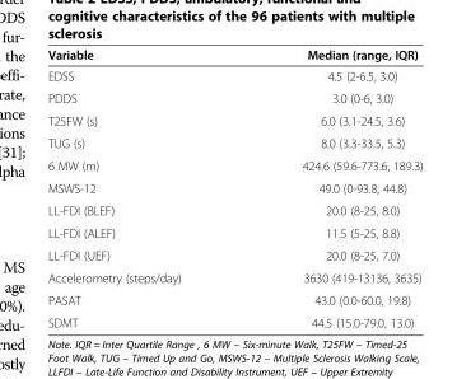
<table><thead><tr><td>Variable</td><td>Median (range, IQR)</td></tr></thead><tbody><tr><td>EDSS</td><td>4.5 (2-6.5, 3.0)</td></tr><tr><td>PDDS</td><td>3.0 (0-6, 3.0)</td></tr><tr><td>T25FW (s)</td><td>6.0 (3.1-24.5, 3.6)</td></tr><tr><td>TUG (s)</td><td>8.0 (3.3-33.5, 5.3)</td></tr><tr><td>6 MW (m)</td><td>424.6 (59.6-773.6, 189.3)</td></tr><tr><td>MSWS-12</td><td>49.0 (0-93.8, 44.8)</td></tr><tr><td>LL-FDI (BLEF)</td><td>20.0 (8-25, 8.0)</td></tr><tr><td>LL-FDI (ALEF)</td><td>11.5 (5-25, 8.8)</td></tr><tr><td>LL-FDI (UEF)</td><td>20.0 (8-25, 7.0)</td></tr><tr><td>Accelerometry (steps/day)</td><td>3630 (419-13136, 3635)</td></tr><tr><td>PASAT</td><td>43.0 (0.0-60.0, 19.8)</td></tr><tr><td>SDMT</td><td>44.5 (15.0-79.0, 13.0)</td></tr></tbody></table>